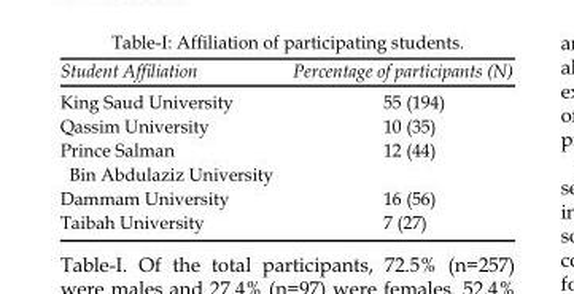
<table><thead><tr><td>Student Affiliation</td><td>Percentage of participants (N)</td></tr></thead><tbody><tr><td>King Saud University</td><td>55 (194)</td></tr><tr><td>Qassim University</td><td>10 (35)</td></tr><tr><td>Prince Salman Bin Abdulaziz University</td><td>12 (44)</td></tr><tr><td>Dammam University</td><td>16 (56)</td></tr><tr><td>Taibah University</td><td>7 (27)</td></tr></tbody></table>